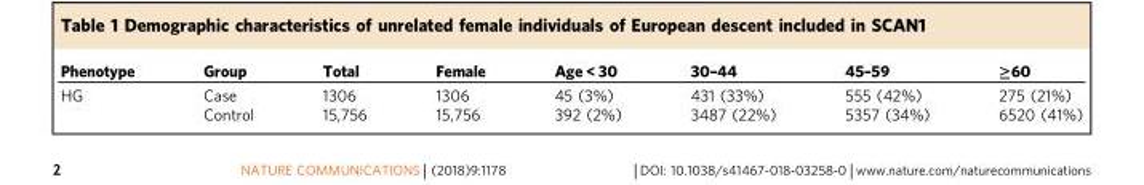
<table><thead><tr><td>Phenotype</td><td>Group</td><td>Total</td><td>Female</td><td>Age &lt; 30</td><td>30–44</td><td>45–59</td><td>≥60</td></tr></thead><tbody><tr><td rowspan="2">HG</td><td>Case</td><td>1306</td><td>1306</td><td>45 (3%)</td><td>431 (33%)</td><td>555 (42%)</td><td>275 (21%)</td></tr><tr><td>Control</td><td>15,756</td><td>15,756</td><td>392 (2%)</td><td>3487 (22%)</td><td>5357 (34%)</td><td>6520 (41%)</td></tr></tbody></table>